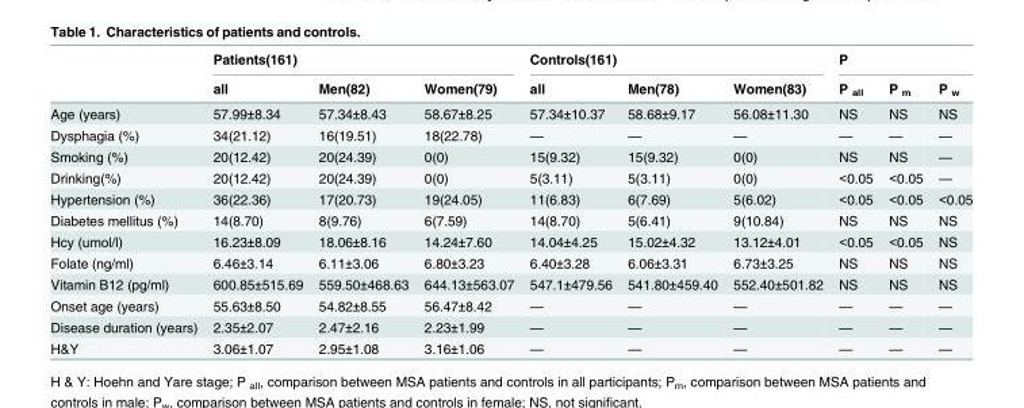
<table><thead><tr><td rowspan="2"></td><td colspan="3">Patients(161)</td><td colspan="3">Controls(161)</td><td colspan="3">P</td></tr><tr><td>all</td><td>Men(82)</td><td>Women(79)</td><td>all</td><td>Men(78)</td><td>Women(83)</td><td>P <sub>all</sub></td><td>P <sub>m</sub></td><td>P <sub>w</sub></td></tr></thead><tbody><tr><td>Age (years)</td><td>57.99±8.34</td><td>57.34±8.43</td><td>58.67±8.25</td><td>57.34±10.37</td><td>58.68±9.17</td><td>56.08±11.30</td><td>NS</td><td>NS</td><td>NS</td></tr><tr><td>Dysphagia (%)</td><td>34(21.12)</td><td>16(19.51)</td><td>18(22.78)</td><td>—</td><td>—</td><td>—</td><td>—</td><td>—</td><td>—</td></tr><tr><td>Smoking (%)</td><td>20(12.42)</td><td>20(24.39)</td><td>0(0)</td><td>15(9.32)</td><td>15(9.32)</td><td>0(0)</td><td>NS</td><td>NS</td><td>—</td></tr><tr><td>Drinking(%)</td><td>20(12.42)</td><td>20(24.39)</td><td>0(0)</td><td>5(3.11)</td><td>5(3.11)</td><td>0(0)</td><td>&lt;0.05</td><td>&lt;0.05</td><td>—</td></tr><tr><td>Hypertension (%)</td><td>36(22.36)</td><td>17(20.73)</td><td>19(24.05)</td><td>11(6.83)</td><td>6(7.69)</td><td>5(6.02)</td><td>&lt;0.05</td><td>&lt;0.05</td><td>&lt;0.05</td></tr><tr><td>Diabetes mellitus (%)</td><td>14(8.70)</td><td>8(9.76)</td><td>6(7.59)</td><td>14(8.70)</td><td>5(6.41)</td><td>9(10.84)</td><td>NS</td><td>NS</td><td>NS</td></tr><tr><td>Hcy (umol/l)</td><td>16.23±8.09</td><td>18.06±8.16</td><td>14.24±7.60</td><td>14.04±4.25</td><td>15.02±4.32</td><td>13.12±4.01</td><td>&lt;0.05</td><td>&lt;0.05</td><td>NS</td></tr><tr><td>Folate (ng/ml)</td><td>6.46±3.14</td><td>6.11±3.06</td><td>6.80±3.23</td><td>6.40±3.28</td><td>6.06±3.31</td><td>6.73±3.25</td><td>NS</td><td>NS</td><td>NS</td></tr><tr><td>Vitamin B12 (pg/ml)</td><td>600.85±515.69</td><td>559.50±468.63</td><td>644.13±563.07</td><td>547.1±479.56</td><td>541.80±459.40</td><td>552.40±501.82</td><td>NS</td><td>NS</td><td>NS</td></tr><tr><td>Onset age (years)</td><td>55.63±8.50</td><td>54.82±8.55</td><td>56.47±8.42</td><td>—</td><td>—</td><td>—</td><td>—</td><td>—</td><td>—</td></tr><tr><td>Disease duration (years)</td><td>2.35±2.07</td><td>2.47±2.16</td><td>2.23±1.99</td><td>—</td><td>—</td><td>—</td><td>—</td><td>—</td><td>—</td></tr><tr><td>H&amp;Y</td><td>3.06±1.07</td><td>2.95±1.08</td><td>3.16±1.06</td><td>—</td><td>—</td><td>—</td><td>—</td><td>—</td><td>—</td></tr></tbody></table>